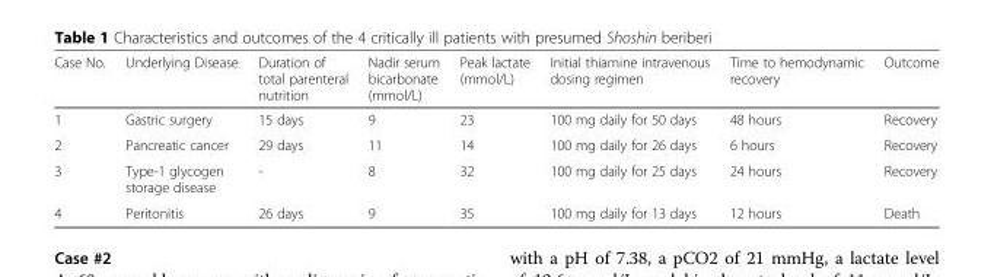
<table><thead><tr><td>Case No.</td><td>Underlying Disease</td><td>Duration of total parenteral nutrition</td><td>Nadir serum bicarbonate (mmol/L)</td><td>Peak lactate (mmol/L)</td><td>Initial thiamine intravenous dosing regimen</td><td>Time to hemodynamic recovery</td><td>Outcome</td></tr></thead><tbody><tr><td>1</td><td>Gastric surgery</td><td>15 days</td><td>9</td><td>23</td><td>100 mg daily for 50 days</td><td>48 hours</td><td>Recovery</td></tr><tr><td>2</td><td>Pancreatic cancer</td><td>29 days</td><td>11</td><td>14</td><td>100 mg daily for 26 days</td><td>6 hours</td><td>Recovery</td></tr><tr><td>3</td><td>Type-1 glycogen storage disease</td><td>-</td><td>8</td><td>32</td><td>100 mg daily for 25 days</td><td>24 hours</td><td>Recovery</td></tr><tr><td>4</td><td>Peritonitis</td><td>26 days</td><td>9</td><td>35</td><td>100 mg daily for 13 days</td><td>12 hours</td><td>Death</td></tr></tbody></table>